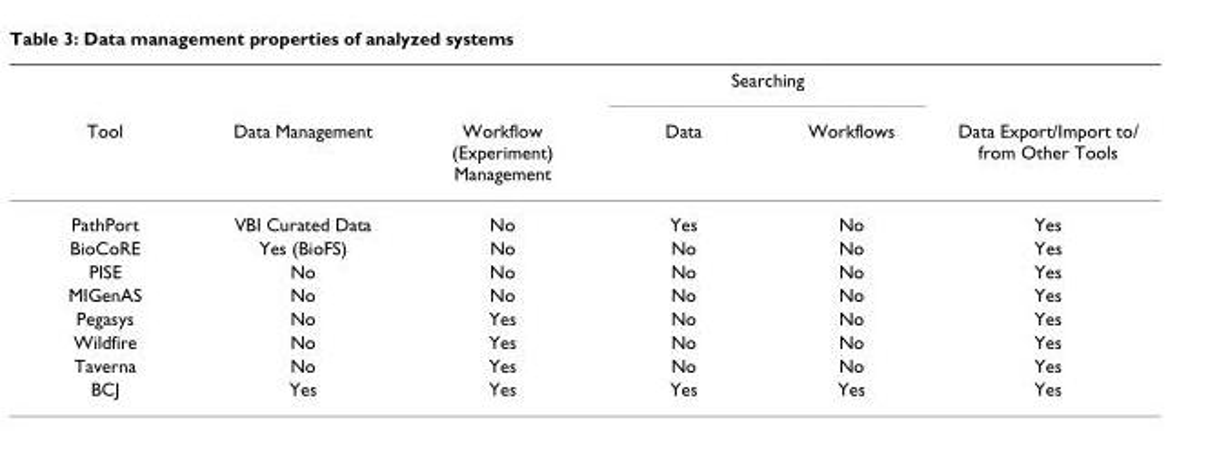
<table><thead><tr><td rowspan="2">Tool</td><td rowspan="2">Data Management</td><td rowspan="2">Workflow (Experiment) Management</td><td colspan="2">Searching</td><td rowspan="2">Data Export/Import to/ from Other Tools</td></tr><tr><td>Data</td><td>Workflows</td></tr></thead><tbody><tr><td>PathPort</td><td>VBI Curated Data</td><td>No</td><td>Yes</td><td>No</td><td>Yes</td></tr><tr><td>BioCoRE</td><td>Yes (BioFS)</td><td>No</td><td>No</td><td>No</td><td>Yes</td></tr><tr><td>PISE</td><td>No</td><td>No</td><td>No</td><td>No</td><td>Yes</td></tr><tr><td>MIGenAS</td><td>No</td><td>No</td><td>No</td><td>No</td><td>Yes</td></tr><tr><td>Pegasys</td><td>No</td><td>Yes</td><td>No</td><td>No</td><td>Yes</td></tr><tr><td>Wildfire</td><td>No</td><td>Yes</td><td>No</td><td>No</td><td>Yes</td></tr><tr><td>Taverna</td><td>No</td><td>Yes</td><td>No</td><td>No</td><td>Yes</td></tr><tr><td>BCJ</td><td>Yes</td><td>Yes</td><td>Yes</td><td>Yes</td><td>Yes</td></tr></tbody></table>